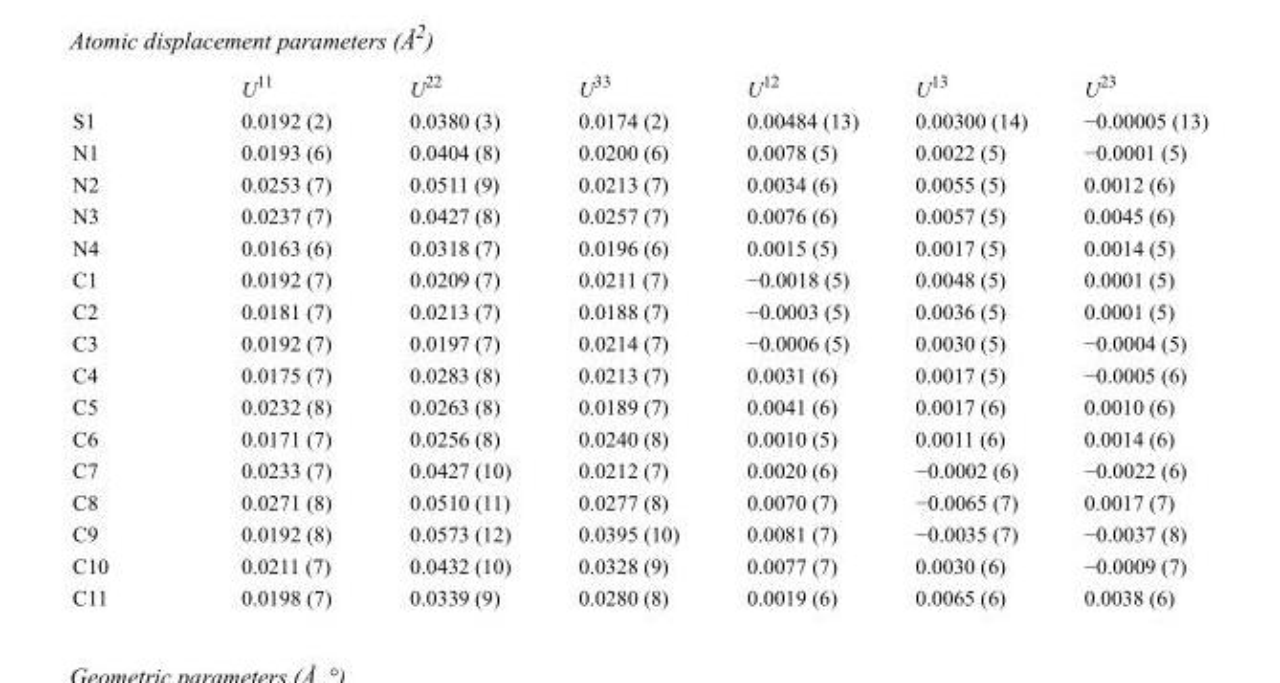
<table><thead><tr><td></td><td>U<sup>11</sup></td><td>U<sup>22</sup></td><td>U<sup>33</sup></td><td>U<sup>12</sup></td><td>U<sup>13</sup></td><td>U<sup>23</sup></td></tr></thead><tbody><tr><td>S1</td><td>0.0192 (2)</td><td>0.0380 (3)</td><td>0.0174 (2)</td><td>0.00484 (13)</td><td>0.00300 (14)</td><td>−0.00005 (13)</td></tr><tr><td>N1</td><td>0.0193 (6)</td><td>0.0404 (8)</td><td>0.0200 (6)</td><td>0.0078 (5)</td><td>0.0022 (5)</td><td>−0.0001 (5)</td></tr><tr><td>N2</td><td>0.0253 (7)</td><td>0.0511 (9)</td><td>0.0213 (7)</td><td>0.0034 (6)</td><td>0.0055 (5)</td><td>0.0012 (6)</td></tr><tr><td>N3</td><td>0.0237 (7)</td><td>0.0427 (8)</td><td>0.0257 (7)</td><td>0.0076 (6)</td><td>0.0057 (5)</td><td>0.0045 (6)</td></tr><tr><td>N4</td><td>0.0163 (6)</td><td>0.0318 (7)</td><td>0.0196 (6)</td><td>0.0015 (5)</td><td>0.0017 (5)</td><td>0.0014 (5)</td></tr><tr><td>C1</td><td>0.0192 (7)</td><td>0.0209 (7)</td><td>0.0211 (7)</td><td>−0.0018 (5)</td><td>0.0048 (5)</td><td>0.0001 (5)</td></tr><tr><td>C2</td><td>0.0181 (7)</td><td>0.0213 (7)</td><td>0.0188 (7)</td><td>−0.0003 (5)</td><td>0.0036 (5)</td><td>0.0001 (5)</td></tr><tr><td>C3</td><td>0.0192 (7)</td><td>0.0197 (7)</td><td>0.0214 (7)</td><td>−0.0006 (5)</td><td>0.0030 (5)</td><td>−0.0004 (5)</td></tr><tr><td>C4</td><td>0.0175 (7)</td><td>0.0283 (8)</td><td>0.0213 (7)</td><td>0.0031 (6)</td><td>0.0017 (5)</td><td>−0.0005 (6)</td></tr><tr><td>C5</td><td>0.0232 (8)</td><td>0.0263 (8)</td><td>0.0189 (7)</td><td>0.0041 (6)</td><td>0.0017 (6)</td><td>0.0010 (6)</td></tr><tr><td>C6</td><td>0.0171 (7)</td><td>0.0256 (8)</td><td>0.0240 (8)</td><td>0.0010 (5)</td><td>0.0011 (6)</td><td>0.0014 (6)</td></tr><tr><td>C7</td><td>0.0233 (7)</td><td>0.0427 (10)</td><td>0.0212 (7)</td><td>0.0020 (6)</td><td>−0.0002 (6)</td><td>−0.0022 (6)</td></tr><tr><td>C8</td><td>0.0271 (8)</td><td>0.0510 (11)</td><td>0.0277 (8)</td><td>0.0070 (7)</td><td>−0.0065 (7)</td><td>0.0017 (7)</td></tr><tr><td>C9</td><td>0.0192 (8)</td><td>0.0573 (12)</td><td>0.0395 (10)</td><td>0.0081 (7)</td><td>−0.0035 (7)</td><td>−0.0037 (8)</td></tr><tr><td>C10</td><td>0.0211 (7)</td><td>0.0432 (10)</td><td>0.0328 (9)</td><td>0.0077 (7)</td><td>0.0030 (6)</td><td>−0.0009 (7)</td></tr><tr><td>C11</td><td>0.0198 (7)</td><td>0.0339 (9)</td><td>0.0280 (8)</td><td>0.0019 (6)</td><td>0.0065 (6)</td><td>0.0038 (6)</td></tr></tbody></table>